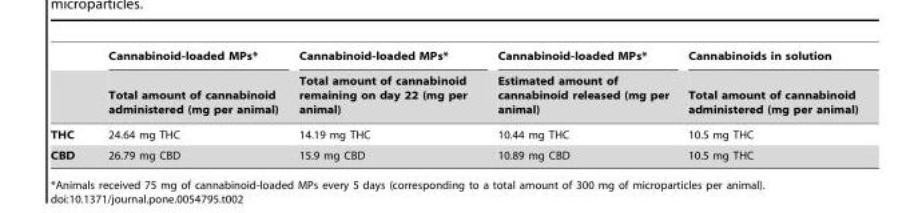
<table><thead><tr><td rowspan="2"></td><td rowspan="2">Cannabinoid-loaded MPs* Total amount of cannabinoid administered (mg per animal)</td><td rowspan="2">Cannabinoid-loaded MPs* Total amount of cannabinoid remaining on day 22 (mg per animal)</td><td rowspan="2">Cannabinoid-loaded MPs* Estimated amount of cannabinoid released (mg per animal)</td><td rowspan="2">Cannabinoids in solution Total amount of cannabinoid administered (mg per animal)</td></tr><tr></tr></thead><tbody><tr><td>THC</td><td>24.64 mg THC</td><td>14.19 mg THC</td><td>10.44 mg THC</td><td>10.5 mg THC</td></tr><tr><td>CBD</td><td>26.79 mg CBD</td><td>15.9 mg CBD</td><td>10.89 mg CBD</td><td>10.5 mg THC</td></tr></tbody></table>